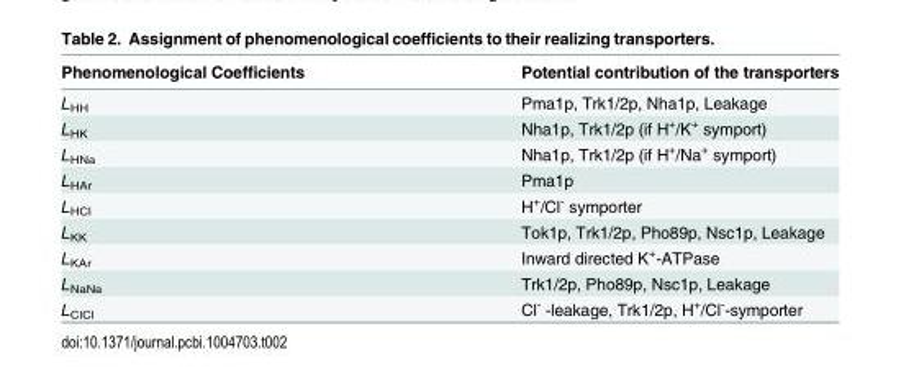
<table><thead><tr><td>Phenomenological Coefficients</td><td>Potential contribution of the transporters</td></tr></thead><tbody><tr><td>L<sub>HH</sub></td><td>Pma1p, Trk1/2p, Nha1p, Leakage</td></tr><tr><td>L<sub>HK</sub></td><td>Nha1p, Trk1/2p (if H<sup>+</sup>/K<sup>+</sup> symport)</td></tr><tr><td>L<sub>HNa</sub></td><td>Nha1p, Trk1/2p (if H<sup>+</sup>/Na<sup>+</sup> symport)</td></tr><tr><td>L<sub>HAr</sub></td><td>Pma1p</td></tr><tr><td>L<sub>HCl</sub></td><td>H<sup>+</sup>/Cl<sup>-</sup> symporter</td></tr><tr><td>L<sub>KK</sub></td><td>Tok1p, Trk1/2p, Pho89p, Nsc1p, Leakage</td></tr><tr><td>L<sub>KAr</sub></td><td>Inward directed K<sup>+</sup>-ATPase</td></tr><tr><td>L<sub>NaNa</sub></td><td>Trk1/2p, Pho89p, Nsc1p, Leakage</td></tr><tr><td>L<sub>ClCl</sub></td><td>Cl<sup>-</sup> -leakage, Trk1/2p, H<sup>+</sup>/Cl<sup>-</sup>-symporter</td></tr></tbody></table>